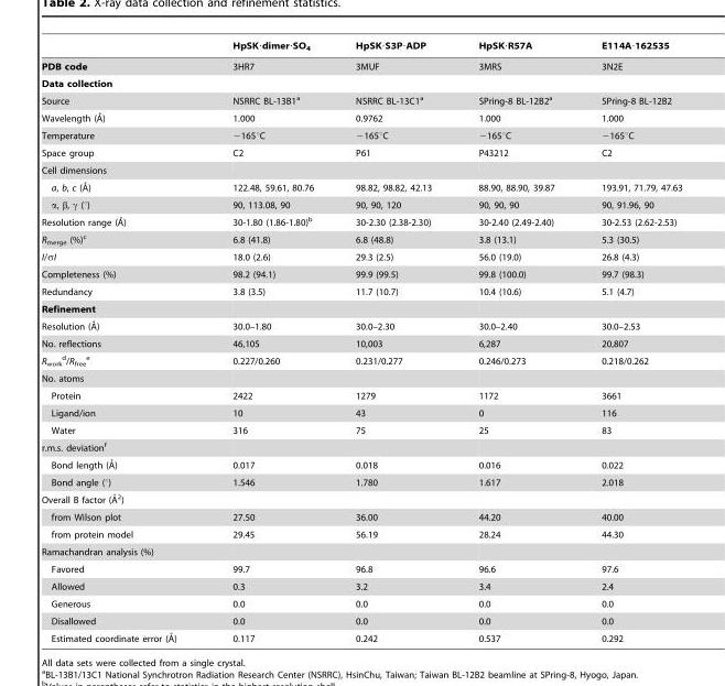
<table><thead><tr><td></td><td>HpSK·dimer·SO<sub>4</sub></td><td>HpSK·S3P·ADP</td><td>HpSK·R57A</td><td>E114A·162535</td></tr></thead><tbody><tr><td>PDB code</td><td>3HR7</td><td>3MUF</td><td>3MRS</td><td>3N2E</td></tr><tr><td colspan="5">Data collection</td></tr><tr><td>Source</td><td>NSRRC BL-13B1<sup>a</sup></td><td>NSRRC BL-13C1<sup>a</sup></td><td>SPring-8 BL-12B2<sup>a</sup></td><td>SPring-8 BL-12B2</td></tr><tr><td>Wavelength (A˚)</td><td>1.000</td><td>0.9762</td><td>1.000</td><td>1.000</td></tr><tr><td>Temperature</td><td>−165°C</td><td>−165°C</td><td>−165°C</td><td>−165°C</td></tr><tr><td>Space group</td><td>C2</td><td>P61</td><td>P43212</td><td>C2</td></tr><tr><td colspan="5">Cell dimensions</td></tr><tr><td>a, b, c (A˚)</td><td>122.48, 59.61, 80.76</td><td>98.82, 98.82, 42.13</td><td>88.90, 88.90, 39.87</td><td>193.91, 71.79, 47.63</td></tr><tr><td>α, β, γ (°)</td><td>90, 113.08, 90</td><td>90, 90, 120</td><td>90, 90, 90</td><td>90, 91.96, 90</td></tr><tr><td>Resolution range (A˚)</td><td>30-1.80 (1.86-1.80)<sup>b</sup></td><td>30-2.30 (2.38-2.30)</td><td>30-2.40 (2.49-2.40)</td><td>30-2.53 (2.62-2.53)</td></tr><tr><td>R<sub>merge</sub> (%)<sup>c</sup></td><td>6.8 (41.8)</td><td>6.8 (48.8)</td><td>3.8 (13.1)</td><td>5.3 (30.5)</td></tr><tr><td>I/σI</td><td>18.0 (2.6)</td><td>29.3 (2.5)</td><td>56.0 (19.0)</td><td>26.8 (4.3)</td></tr><tr><td>Completeness (%)</td><td>98.2 (94.1)</td><td>99.9 (99.5)</td><td>99.8 (100.0)</td><td>99.7 (98.3)</td></tr><tr><td>Redundancy</td><td>3.8 (3.5)</td><td>11.7 (10.7)</td><td>10.4 (10.6)</td><td>5.1 (4.7)</td></tr><tr><td colspan="5">Refinement</td></tr><tr><td>Resolution (A˚)</td><td>30.0–1.80</td><td>30.0–2.30</td><td>30.0–2.40</td><td>30.0–2.53</td></tr><tr><td>No. reflections</td><td>46,105</td><td>10,003</td><td>6,287</td><td>20,807</td></tr><tr><td>R<sub>work</sub> d/R<sub>free</sub> e</td><td>0.227/0.260</td><td>0.231/0.277</td><td>0.246/0.273</td><td>0.218/0.262</td></tr><tr><td colspan="5">No. atoms</td></tr><tr><td>Protein</td><td>2422</td><td>1279</td><td>1172</td><td>3661</td></tr><tr><td>Ligand/ion</td><td>10</td><td>43</td><td>0</td><td>116</td></tr><tr><td>Water</td><td>316</td><td>75</td><td>25</td><td>83</td></tr><tr><td colspan="5">r.m.s. deviation<sup>f</sup></td></tr><tr><td>Bond length (A˚)</td><td>0.017</td><td>0.018</td><td>0.016</td><td>0.022</td></tr><tr><td>Bond angle (°)</td><td>1.546</td><td>1.780</td><td>1.617</td><td>2.018</td></tr><tr><td colspan="5">Overall B factor (A˚2)</td></tr><tr><td>from Wilson plot</td><td>27.50</td><td>36.00</td><td>44.20</td><td>40.00</td></tr><tr><td>from protein model</td><td>29.45</td><td>56.19</td><td>28.24</td><td>44.30</td></tr><tr><td colspan="5">Ramachandran analysis (%)</td></tr><tr><td>Favored</td><td>99.7</td><td>96.8</td><td>96.6</td><td>97.6</td></tr><tr><td>Allowed</td><td>0.3</td><td>3.2</td><td>3.4</td><td>2.4</td></tr><tr><td>Generous</td><td>0.0</td><td>0.0</td><td>0.0</td><td>0.0</td></tr><tr><td>Disallowed</td><td>0.0</td><td>0.0</td><td>0.0</td><td>0.0</td></tr><tr><td>Estimated coordinate error (A˚)</td><td>0.117</td><td>0.242</td><td>0.537</td><td>0.292</td></tr></tbody></table>